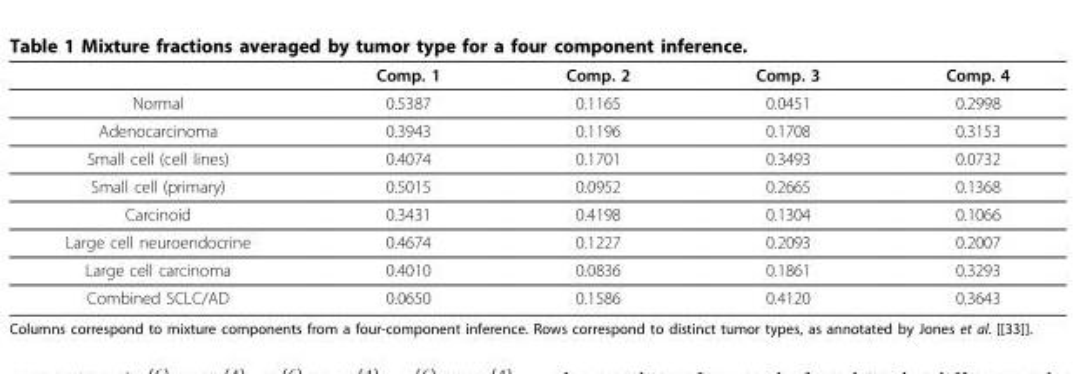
<table><thead><tr><td></td><td>Comp. 1</td><td>Comp. 2</td><td>Comp. 3</td><td>Comp. 4</td></tr></thead><tbody><tr><td>Normal</td><td>0.5387</td><td>0.1165</td><td>0.0451</td><td>0.2998</td></tr><tr><td>Adenocarcinoma</td><td>0.3943</td><td>0.1196</td><td>0.1708</td><td>0.3153</td></tr><tr><td>Small cell (cell lines)</td><td>0.4074</td><td>0.1701</td><td>0.3493</td><td>0.0732</td></tr><tr><td>Small cell (primary)</td><td>0.5015</td><td>0.0952</td><td>0.2665</td><td>0.1368</td></tr><tr><td>Carcinoid</td><td>0.3431</td><td>0.4198</td><td>0.1304</td><td>0.1066</td></tr><tr><td>Large cell neuroendocrine</td><td>0.4674</td><td>0.1227</td><td>0.2093</td><td>0.2007</td></tr><tr><td>Large cell carcinoma</td><td>0.4010</td><td>0.0836</td><td>0.1861</td><td>0.3293</td></tr><tr><td>Combined SCLC/AD</td><td>0.0650</td><td>0.1586</td><td>0.4120</td><td>0.3643</td></tr></tbody></table>